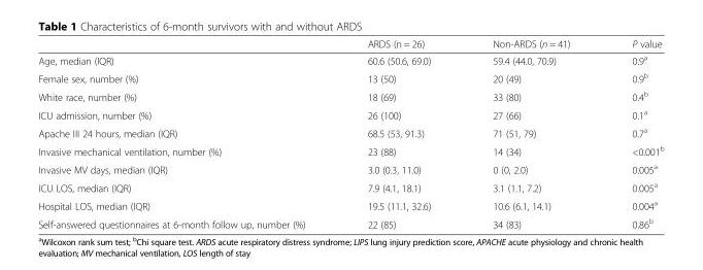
<table><thead><tr><td></td><td>ARDS (n = 26)</td><td>Non-ARDS (n = 41)</td><td>P value</td></tr></thead><tbody><tr><td>Age, median (IQR)</td><td>60.6 (50.6, 69.0)</td><td>59.4 (44.0, 70.9)</td><td>0.9<sup>a</sup></td></tr><tr><td>Female sex, number (%)</td><td>13 (50)</td><td>20 (49)</td><td>0.9<sup>b</sup></td></tr><tr><td>White race, number (%)</td><td>18 (69)</td><td>33 (80)</td><td>0.4<sup>b</sup></td></tr><tr><td>ICU admission, number (%)</td><td>26 (100)</td><td>27 (66)</td><td>0.1<sup>a</sup></td></tr><tr><td>Apache III 24 hours, median (IQR)</td><td>68.5 (53, 91.3)</td><td>71 (51, 79)</td><td>0.7<sup>a</sup></td></tr><tr><td>Invasive mechanical ventilation, number (%)</td><td>23 (88)</td><td>14 (34)</td><td>&lt;0.001<sup>b</sup></td></tr><tr><td>Invasive MV days, median (IQR)</td><td>3.0 (0.3, 11.0)</td><td>0 (0, 2.0)</td><td>0.005<sup>a</sup></td></tr><tr><td>ICU LOS, median (IQR)</td><td>7.9 (4.1, 18.1)</td><td>3.1 (1.1, 7.2)</td><td>0.005<sup>a</sup></td></tr><tr><td>Hospital LOS, median (IQR)</td><td>19.5 (11.1, 32.6)</td><td>10.6 (6.1, 14.1)</td><td>0.004<sup>a</sup></td></tr><tr><td>Self-answered questionnaires at 6-month follow up, number (%)</td><td>22 (85)</td><td>34 (83)</td><td>0.86<sup>b</sup></td></tr></tbody></table>